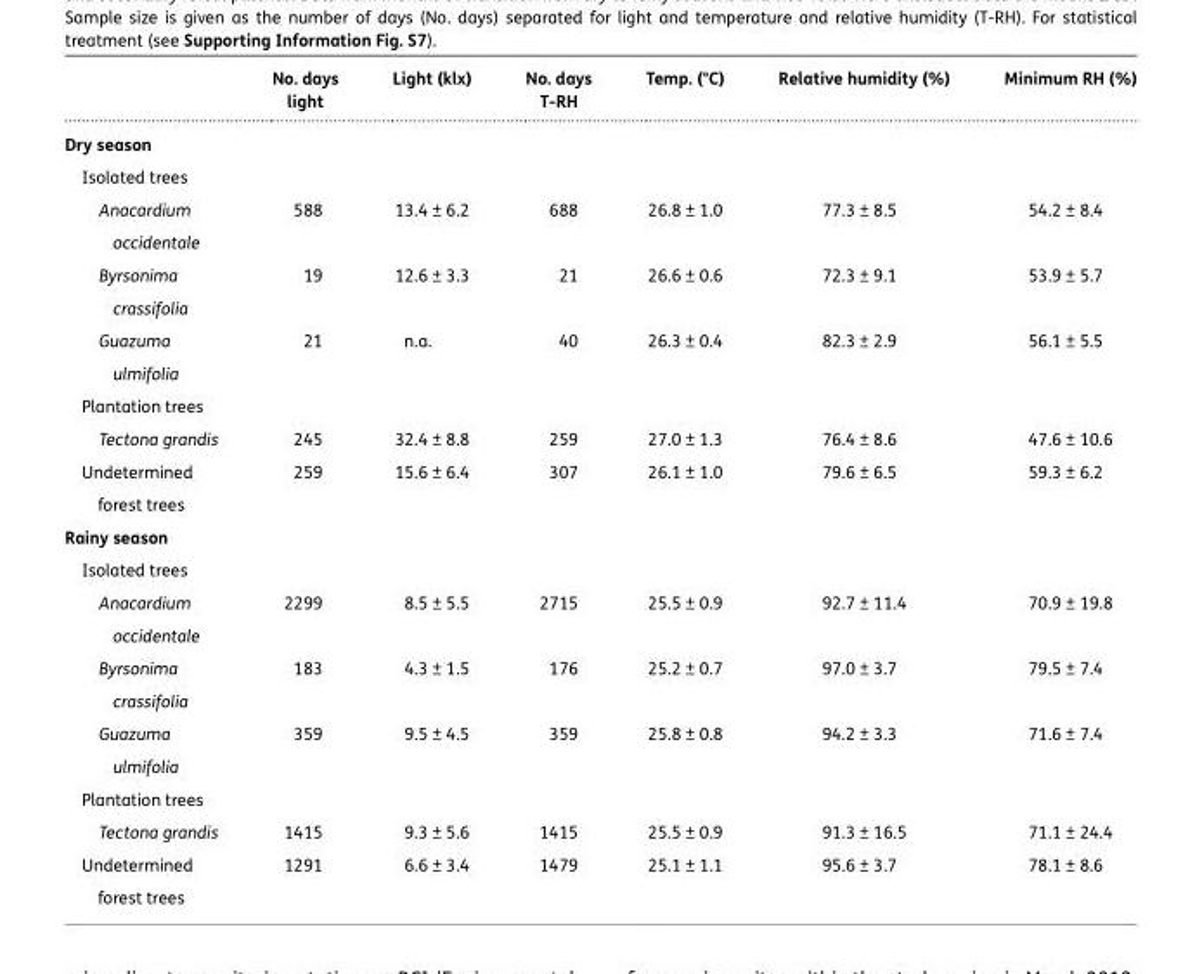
<table><thead><tr><td></td><td>No. days light</td><td>Light (klx)</td><td>No. days T-RH</td><td>Temp. (°C)</td><td>Relative humidity (%)</td><td>Minimum RH (%)</td></tr></thead><tbody><tr><td colspan="7">Dry season</td></tr><tr><td colspan="7">Isolated trees</td></tr><tr><td>Anacardium occidentale</td><td>588</td><td>13.4 ± 6.2</td><td>688</td><td>26.8 ± 1.0</td><td>77.3 ± 8.5</td><td>54.2 ± 8.4</td></tr><tr><td>Byrsonima crassifolia</td><td>19</td><td>12.6 ± 3.3</td><td>21</td><td>26.6 ± 0.6</td><td>72.3 ± 9.1</td><td>53.9 ± 5.7</td></tr><tr><td>Guazuma ulmifolia</td><td>21</td><td>n.a.</td><td>40</td><td>26.3 ± 0.4</td><td>82.3 ± 2.9</td><td>56.1 ± 5.5</td></tr><tr><td colspan="7">Plantation trees</td></tr><tr><td>Tectona grandis</td><td>245</td><td>32.4 ± 8.8</td><td>259</td><td>27.0 ± 1.3</td><td>76.4 ± 8.6</td><td>47.6 ± 10.6</td></tr><tr><td>Undetermined forest trees</td><td>259</td><td>15.6 ± 6.4</td><td>307</td><td>26.1 ± 1.0</td><td>79.6 ± 6.5</td><td>59.3 ± 6.2</td></tr><tr><td colspan="7">Rainy season</td></tr><tr><td colspan="7">Isolated trees</td></tr><tr><td>Anacardium occidentale</td><td>2299</td><td>8.5 ± 5.5</td><td>2715</td><td>25.5 ± 0.9</td><td>92.7 ± 11.4</td><td>70.9 ± 19.8</td></tr><tr><td>Byrsonima crassifolia</td><td>183</td><td>4.3 ± 1.5</td><td>176</td><td>25.2 ± 0.7</td><td>97.0 ± 3.7</td><td>79.5 ± 7.4</td></tr><tr><td>Guazuma ulmifolia</td><td>359</td><td>9.5 ± 4.5</td><td>359</td><td>25.8 ± 0.8</td><td>94.2 ± 3.3</td><td>71.6 ± 7.4</td></tr><tr><td colspan="7">Plantation trees</td></tr><tr><td>Tectona grandis</td><td>1415</td><td>9.3 ± 5.6</td><td>1415</td><td>25.5 ± 0.9</td><td>91.3 ± 16.5</td><td>71.1 ± 24.4</td></tr><tr><td>Undetermined forest trees</td><td>1291</td><td>6.6 ± 3.4</td><td>1479</td><td>25.1 ± 1.1</td><td>95.6 ± 3.7</td><td>78.1 ± 8.6</td></tr></tbody></table>